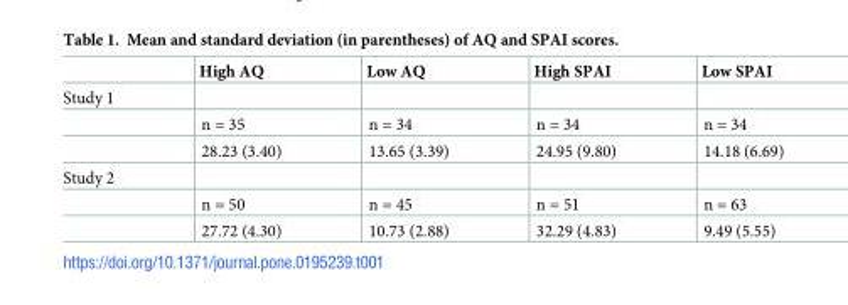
<table><thead><tr><td></td><td>High AQ</td><td>Low AQ</td><td>High SPAI</td><td>Low SPAI</td></tr></thead><tbody><tr><td colspan="5">Study 1</td></tr><tr><td></td><td>n = 35</td><td>n = 34</td><td>n = 34</td><td>n = 34</td></tr><tr><td></td><td>28.23 (3.40)</td><td>13.65 (3.39)</td><td>24.95 (9.80)</td><td>14.18 (6.69)</td></tr><tr><td colspan="5">Study 2</td></tr><tr><td></td><td>n = 50</td><td>n = 45</td><td>n = 51</td><td>n = 63</td></tr><tr><td></td><td>27.72 (4.30)</td><td>10.73 (2.88)</td><td>32.29 (4.83)</td><td>9.49 (5.55)</td></tr></tbody></table>